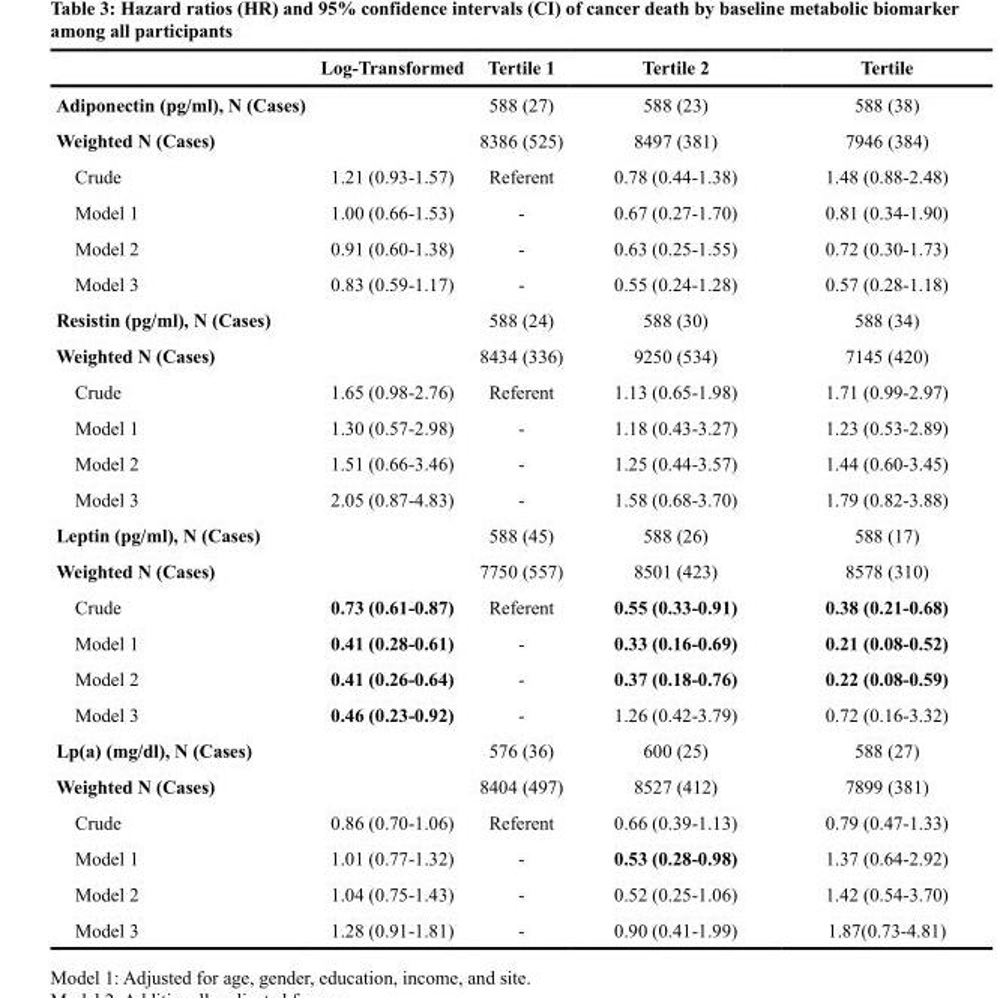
<table><thead><tr><td></td><td>Log-Transformed</td><td>Tertile 1</td><td>Tertile 2</td><td>Tertile</td></tr></thead><tbody><tr><td>Adiponectin (pg/ml), N (Cases)</td><td></td><td>588 (27)</td><td>588 (23)</td><td>588 (38)</td></tr><tr><td>Weighted N (Cases)</td><td></td><td>8386 (525)</td><td>8497 (381)</td><td>7946 (384)</td></tr><tr><td>Crude</td><td>1.21 (0.93-1.57)</td><td>Referent</td><td>0.78 (0.44-1.38)</td><td>1.48 (0.88-2.48)</td></tr><tr><td>Model 1</td><td>1.00 (0.66-1.53)</td><td>-</td><td>0.67 (0.27-1.70)</td><td>0.81 (0.34-1.90)</td></tr><tr><td>Model 2</td><td>0.91 (0.60-1.38)</td><td>-</td><td>0.63 (0.25-1.55)</td><td>0.72 (0.30-1.73)</td></tr><tr><td>Model 3</td><td>0.83 (0.59-1.17)</td><td>-</td><td>0.55 (0.24-1.28)</td><td>0.57 (0.28-1.18)</td></tr><tr><td>Resistin (pg/ml), N (Cases)</td><td></td><td>588 (24)</td><td>588 (30)</td><td>588 (34)</td></tr><tr><td>Weighted N (Cases)</td><td></td><td>8434 (336)</td><td>9250 (534)</td><td>7145 (420)</td></tr><tr><td>Crude</td><td>1.65 (0.98-2.76)</td><td>Referent</td><td>1.13 (0.65-1.98)</td><td>1.71 (0.99-2.97)</td></tr><tr><td>Model 1</td><td>1.30 (0.57-2.98)</td><td>-</td><td>1.18 (0.43-3.27)</td><td>1.23 (0.53-2.89)</td></tr><tr><td>Model 2</td><td>1.51 (0.66-3.46)</td><td>-</td><td>1.25 (0.44-3.57)</td><td>1.44 (0.60-3.45)</td></tr><tr><td>Model 3</td><td>2.05 (0.87-4.83)</td><td>-</td><td>1.58 (0.68-3.70)</td><td>1.79 (0.82-3.88)</td></tr><tr><td>Leptin (pg/ml), N (Cases)</td><td></td><td>588 (45)</td><td>588 (26)</td><td>588 (17)</td></tr><tr><td>Weighted N (Cases)</td><td></td><td>7750 (557)</td><td>8501 (423)</td><td>8578 (310)</td></tr><tr><td>Crude</td><td>0.73 (0.61-0.87)</td><td>Referent</td><td>0.55 (0.33-0.91)</td><td>0.38 (0.21-0.68)</td></tr><tr><td>Model 1</td><td>0.41 (0.28-0.61)</td><td>-</td><td>0.33 (0.16-0.69)</td><td>0.21 (0.08-0.52)</td></tr><tr><td>Model 2</td><td>0.41 (0.26-0.64)</td><td>-</td><td>0.37 (0.18-0.76)</td><td>0.22 (0.08-0.59)</td></tr><tr><td>Model 3</td><td>0.46 (0.23-0.92)</td><td>-</td><td>1.26 (0.42-3.79)</td><td>0.72 (0.16-3.32)</td></tr><tr><td colspan="2">Lp(a) (mg/dl), N (Cases)</td><td>576 (36)</td><td>600 (25)</td><td>588 (27)</td></tr><tr><td>Weighted N (Cases)</td><td></td><td>8404 (497)</td><td>8527 (412)</td><td>7899 (381)</td></tr><tr><td>Crude</td><td>0.86 (0.70-1.06)</td><td>Referent</td><td>0.66 (0.39-1.13)</td><td>0.79 (0.47-1.33)</td></tr><tr><td>Model 1</td><td>1.01 (0.77-1.32)</td><td>-</td><td>0.53 (0.28-0.98)</td><td>1.37 (0.64-2.92)</td></tr><tr><td>Model 2</td><td>1.04 (0.75-1.43)</td><td>-</td><td>0.52 (0.25-1.06)</td><td>1.42 (0.54-3.70)</td></tr><tr><td>Model 3</td><td>1.28 (0.91-1.81)</td><td>-</td><td>0.90 (0.41-1.99)</td><td>1.87(0.73-4.81)</td></tr></tbody></table>